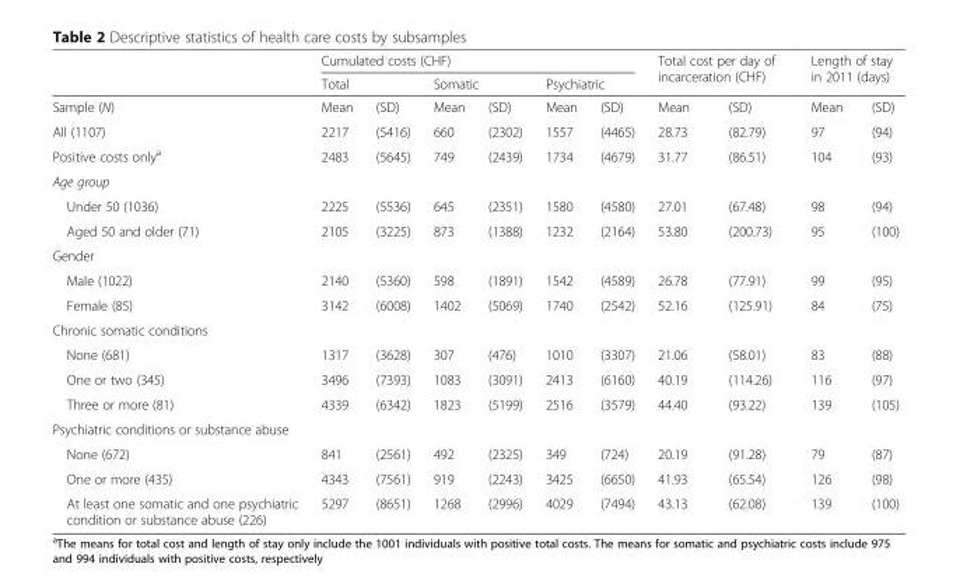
<table><thead><tr><td rowspan="3">Sample (N)</td><td colspan="6">Cumulated costs (CHF)</td><td rowspan="2" colspan="2">Total cost per day of incarceration (CHF)</td><td rowspan="2" colspan="2">Length of stay in 2011 (days)</td></tr><tr><td colspan="2">Total</td><td colspan="2">Somatic</td><td colspan="2">Psychiatric</td></tr><tr><td>Mean</td><td>(SD)</td><td>Mean</td><td>(SD)</td><td>Mean</td><td>(SD)</td><td>Mean</td><td>(SD)</td><td>Mean</td><td>(SD)</td></tr></thead><tbody><tr><td>All (1107)</td><td>2217</td><td>(5416)</td><td>660</td><td>(2302)</td><td>1557</td><td>(4465)</td><td>28.73</td><td>(82.79)</td><td>97</td><td>(94)</td></tr><tr><td>Positive costs only<sup>a</sup></td><td>2483</td><td>(5645)</td><td>749</td><td>(2439)</td><td>1734</td><td>(4679)</td><td>31.77</td><td>(86.51)</td><td>104</td><td>(93)</td></tr><tr><td colspan="11">Age group</td></tr><tr><td>Under 50 (1036)</td><td>2225</td><td>(5536)</td><td>645</td><td>(2351)</td><td>1580</td><td>(4580)</td><td>27.01</td><td>(67.48)</td><td>98</td><td>(94)</td></tr><tr><td>Aged 50 and older (71)</td><td>2105</td><td>(3225)</td><td>873</td><td>(1388)</td><td>1232</td><td>(2164)</td><td>53.80</td><td>(200.73)</td><td>95</td><td>(100)</td></tr><tr><td colspan="11">Gender</td></tr><tr><td>Male (1022)</td><td>2140</td><td>(5360)</td><td>598</td><td>(1891)</td><td>1542</td><td>(4589)</td><td>26.78</td><td>(77.91)</td><td>99</td><td>(95)</td></tr><tr><td>Female (85)</td><td>3142</td><td>(6008)</td><td>1402</td><td>(5069)</td><td>1740</td><td>(2542)</td><td>52.16</td><td>(125.91)</td><td>84</td><td>(75)</td></tr><tr><td colspan="11">Chronic somatic conditions</td></tr><tr><td>None (681)</td><td>1317</td><td>(3628)</td><td>307</td><td>(476)</td><td>1010</td><td>(3307)</td><td>21.06</td><td>(58.01)</td><td>83</td><td>(88)</td></tr><tr><td>One or two (345)</td><td>3496</td><td>(7393)</td><td>1083</td><td>(3091)</td><td>2413</td><td>(6160)</td><td>40.19</td><td>(114.26)</td><td>116</td><td>(97)</td></tr><tr><td>Three or more (81)</td><td>4339</td><td>(6342)</td><td>1823</td><td>(5199)</td><td>2516</td><td>(3579)</td><td>44.40</td><td>(93.22)</td><td>139</td><td>(105)</td></tr><tr><td colspan="11">Psychiatric conditions or substance abuse</td></tr><tr><td>None (672)</td><td>841</td><td>(2561)</td><td>492</td><td>(2325)</td><td>349</td><td>(724)</td><td>20.19</td><td>(91.28)</td><td>79</td><td>(87)</td></tr><tr><td>One or more (435)</td><td>4343</td><td>(7561)</td><td>919</td><td>(2243)</td><td>3425</td><td>(6650)</td><td>41.93</td><td>(65.54)</td><td>126</td><td>(98)</td></tr><tr><td>At least one somatic and one psychiatric condition or substance abuse (226)</td><td>5297</td><td>(8651)</td><td>1268</td><td>(2996)</td><td>4029</td><td>(7494)</td><td>43.13</td><td>(62.08)</td><td>139</td><td>(100)</td></tr></tbody></table>